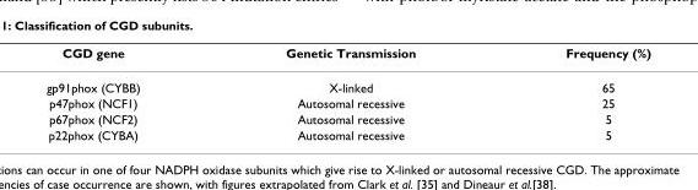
<table><thead><tr><td>CGD gene</td><td>Genetic Transmission</td><td>Frequency (%)</td></tr></thead><tbody><tr><td>gp91phox (CYBB)</td><td>X-linked</td><td>65</td></tr><tr><td>p47phox (NCF1)</td><td>Autosomal recessive</td><td>25</td></tr><tr><td>p67phox (NCF2)</td><td>Autosomal recessive</td><td>5</td></tr><tr><td>p22phox (CYBA)</td><td>Autosomal recessive</td><td>5</td></tr></tbody></table>